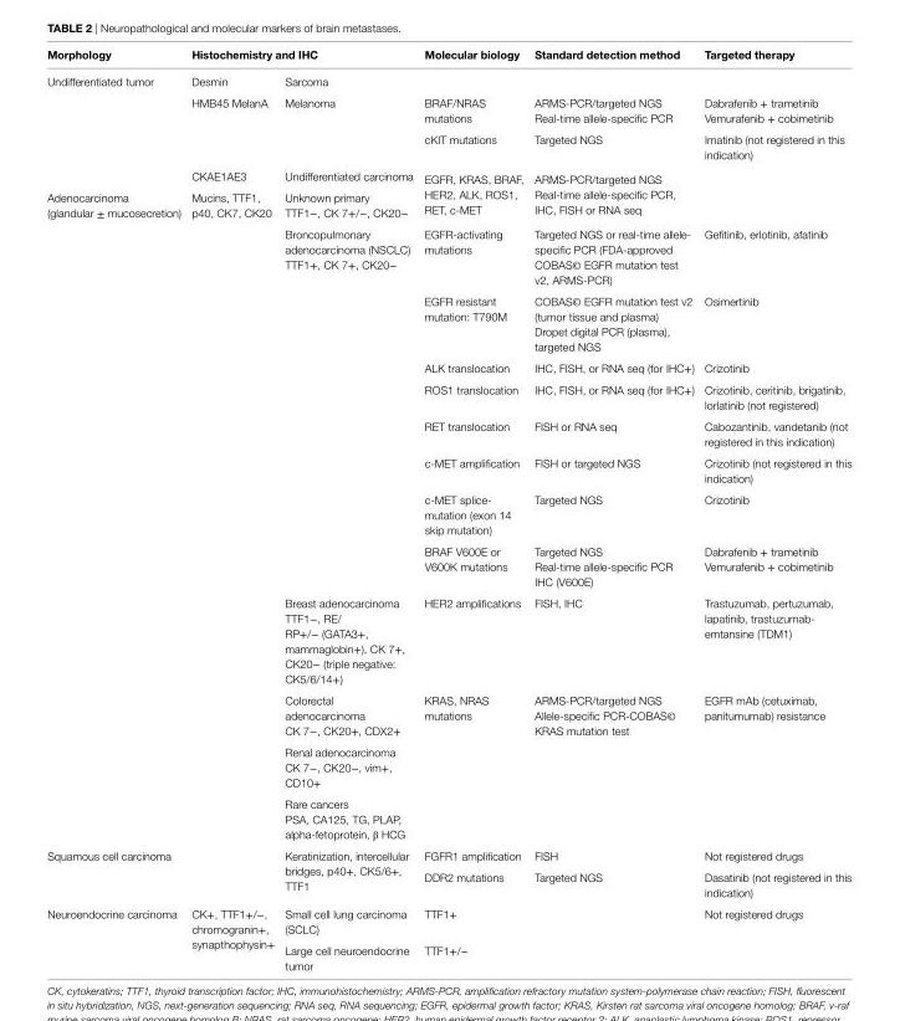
<table><thead><tr><td rowspan="2">Morphology Undifferentiated tumor</td><td colspan="2">Histochemistry and iHC</td><td>Molecular biology</td><td>Standard detection method</td><td>Targeted therapy</td></tr><tr><td>Desmin</td><td>Sarcoma</td><td colspan="3"></td></tr></thead><tbody><tr><td></td><td>HMB45 MelanA</td><td>Melanoma</td><td>BRAF/NRAS mutations</td><td>ARMS-PCR/targeted NGS Real-time allele-specific PCR</td><td>Dabrafenib + trametinib Vemurafenib + cobimetinib</td></tr><tr><td></td><td></td><td></td><td>cKIT mutations</td><td>Targeted NGS</td><td>Imatinib (not registered in this indication)</td></tr><tr><td></td><td>CKAE1AE3</td><td>Undifferentiated carcinoma</td><td rowspan="2">EGFR, KRAS, BRAF, HER2, ALK, ROS1, RET, c-MET</td><td rowspan="2">ARMS-PCR/targeted NGS Real-time allele-specific PCR, IHC, FISH or RNA seq</td><td rowspan="2"></td></tr><tr><td rowspan="13">Adenocarcinoma (glandular ± mucosecretion)</td><td>Mucins, TTF1, p40, CK7, CK20</td><td>Unknown primary TTF1−, CK 7+/−, CK20−</td></tr><tr><td></td><td>Broncopulmonary adenocarcinoma (NSCLC) TTF1+, CK 7+, CK20−</td><td>EGFR-activating mutations</td><td>Targeted NGS or real-time allele- specific PCR (FDA-approved COBAS© EGFR mutation test v2, ARMS-PCR)</td><td>Gefitinib, erlotinib, afatinib</td></tr><tr><td></td><td></td><td>EGFR resistant mutation: T790M</td><td>COBAS© EGFR mutation test v2 (tumor tissue and plasma) Dropet digital PCR (plasma), targeted NGS</td><td>Osimertinib</td></tr><tr><td></td><td></td><td>ALK translocation</td><td>IHC, FISH, or RNA seq (for IHC+)</td><td>Crizotinib</td></tr><tr><td></td><td></td><td>ROS1 translocation</td><td>IHC, FISH, or RNA seq (for IHC+)</td><td>Crizotinib, ceritinib, brigatinib, lorlatinib (not registered)</td></tr><tr><td></td><td></td><td>RET translocation</td><td>FISH or RNA seq</td><td>Cabozantinib, vandetanib (not registered in this indication)</td></tr><tr><td></td><td></td><td>c-MET amplification</td><td>FISH or targeted NGS</td><td>Crizotinib (not registered in this indication)</td></tr><tr><td></td><td></td><td>c-MET splice- mutation (exon 14 skip mutation)</td><td>Targeted NGS</td><td>Crizotinib</td></tr><tr><td></td><td></td><td>BRAF V600E or V600K mutations</td><td>Targeted NGS Real-time allele-specific PCR IHC (V600E)</td><td>Dabrafenib + trametinib Vemurafenib + cobimetinib</td></tr><tr><td></td><td>Breast adenocarcinoma TTF1−, RE/ RP+/− (GATA3+, mammaglobin+), CK 7+, CK20− (triple negative: CK5/6/14+)</td><td>HER2 amplifications</td><td>FISH, IHC</td><td>Trastuzumab, pertuzumab, lapatinib, trastuzumab- emtansine (TDM1)</td></tr><tr><td></td><td>Colorectal adenocarcinoma CK 7−, CK20+, CDX2+</td><td>KRAS, NRAS mutations</td><td>ARMS-PCR/targeted NGS Allele-specific PCR-COBAS© KRAS mutation test</td><td>EGFR mAb (cetuximab, panitumumab) resistance</td></tr><tr><td></td><td>Renal adenocarcinoma CK 7−, CK20−, vim+, CD10+</td><td colspan="3"></td></tr><tr><td></td><td>Rare cancers PSA, CA125, TG, PLAP, alpha-fetoprotein, β HCG</td><td colspan="3"></td></tr><tr><td rowspan="2">Squamous cell carcinoma</td><td rowspan="2"></td><td rowspan="2">Keratinization, intercellular bridges, p40+, CK5/6+, TTF1</td><td>FGFR1 amplification</td><td>FISH</td><td>Not registered drugs</td></tr><tr><td>DDR2 mutations</td><td>Targeted NGS</td><td>Dasatinib (not registered in this indication)</td></tr><tr><td rowspan="2">Neuroendocrine carcinoma</td><td rowspan="2">CK+, TTF1+/−, chromogranin+, synapthophysin+</td><td>Small cell lung carcinoma (SCLC)</td><td>TTF1+</td><td></td><td>Not registered drugs</td></tr><tr><td>Large cell neuroendocrine tumor</td><td>TTF1+/−</td><td></td><td></td></tr></tbody></table>